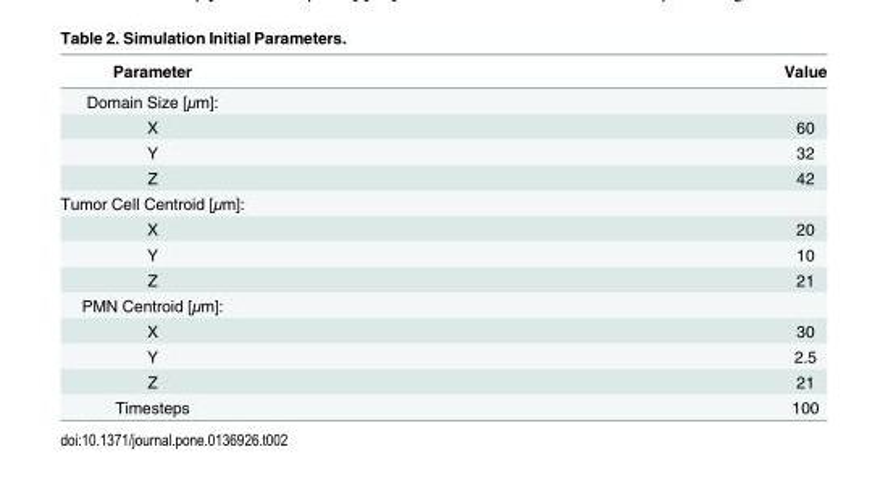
<table><thead><tr><td>Parameter</td><td>Value</td></tr></thead><tbody><tr><td colspan="2">Domain Size [μm]:</td></tr><tr><td>X</td><td>60</td></tr><tr><td>Y</td><td>32</td></tr><tr><td>Z</td><td>42</td></tr><tr><td colspan="2">Tumor Cell Centroid [μm]:</td></tr><tr><td>X</td><td>20</td></tr><tr><td>Y</td><td>10</td></tr><tr><td>Z</td><td>21</td></tr><tr><td colspan="2">PMN Centroid [μm]:</td></tr><tr><td>X</td><td>30</td></tr><tr><td>Y</td><td>2.5</td></tr><tr><td>Z</td><td>21</td></tr><tr><td>Timesteps</td><td>100</td></tr></tbody></table>